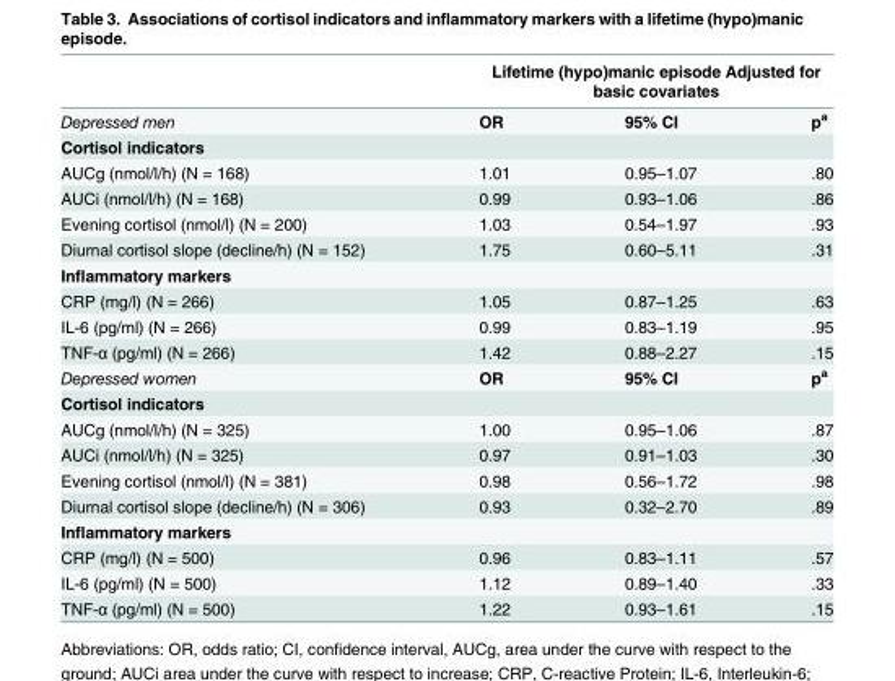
<table><thead><tr><td rowspan="2">Depressed men</td><td colspan="3">Lifetime (hypo)manic episode Adjusted for basic covariates</td></tr><tr><td>OR</td><td>95% CI</td><td>p<sup>a</sup></td></tr></thead><tbody><tr><td colspan="4">Cortisol indicators</td></tr><tr><td>AUCg (nmol/l/h) (N = 168)</td><td>1.01</td><td>0.95–1.07</td><td>.80</td></tr><tr><td>AUCi (nmol/l/h) (N = 168)</td><td>0.99</td><td>0.93–1.06</td><td>.86</td></tr><tr><td>Evening cortisol (nmol/l) (N = 200)</td><td>1.03</td><td>0.54–1.97</td><td>.93</td></tr><tr><td>Diurnal cortisol slope (decline/h) (N = 152)</td><td>1.75</td><td>0.60–5.11</td><td>.31</td></tr><tr><td colspan="4">Inflammatory markers</td></tr><tr><td>CRP (mg/l) (N = 266)</td><td>1.05</td><td>0.87–1.25</td><td>.63</td></tr><tr><td>IL-6 (pg/ml) (N = 266)</td><td>0.99</td><td>0.83–1.19</td><td>.95</td></tr><tr><td>TNF-α (pg/ml) (N = 266)</td><td>1.42</td><td>0.88–2.27</td><td>.15</td></tr><tr><td>Depressed women</td><td>OR</td><td>95% CI</td><td>p<sup>a</sup></td></tr><tr><td colspan="4">Cortisol indicators</td></tr><tr><td>AUCg (nmol/l/h) (N = 325)</td><td>1.00</td><td>0.95–1.06</td><td>.87</td></tr><tr><td>AUCi (nmol/l/h) (N = 325)</td><td>0.97</td><td>0.91–1.03</td><td>.30</td></tr><tr><td>Evening cortisol (nmol/l) (N = 381)</td><td>0.98</td><td>0.56–1.72</td><td>.98</td></tr><tr><td>Diurnal cortisol slope (decline/h) (N = 306)</td><td>0.93</td><td>0.32–2.70</td><td>.89</td></tr><tr><td colspan="4">Inflammatory markers</td></tr><tr><td>CRP (mg/l) (N = 500)</td><td>0.96</td><td>0.83–1.11</td><td>.57</td></tr><tr><td>IL-6 (pg/ml) (N = 500)</td><td>1.12</td><td>0.89–1.40</td><td>.33</td></tr><tr><td>TNF-α (pg/ml) (N = 500)</td><td>1.22</td><td>0.93–1.61</td><td>.15</td></tr></tbody></table>